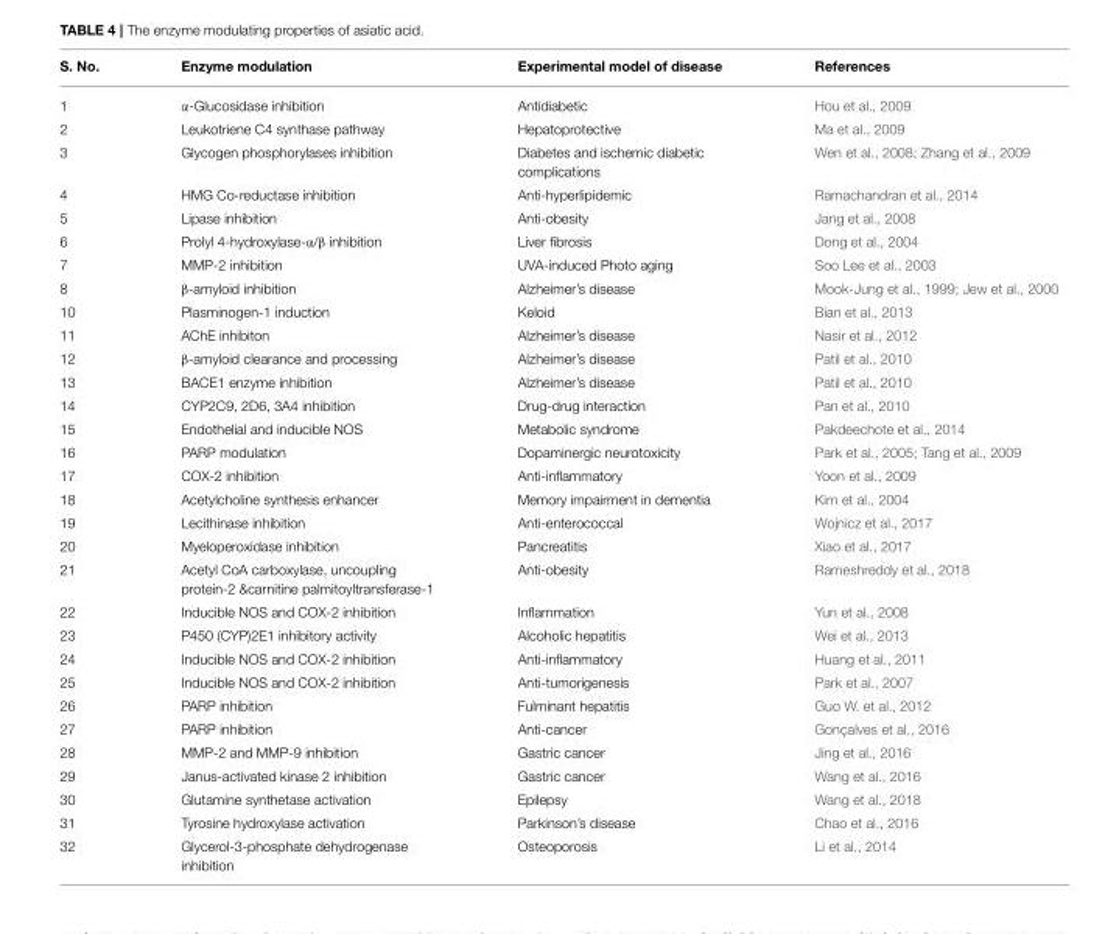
<table><thead><tr><td>S. No.</td><td>Enzyme modulation</td><td>Experimental model of disease</td><td>References</td></tr></thead><tbody><tr><td>1</td><td>α-Glucosidase inhibition</td><td>Antidiabetic</td><td>Hou et al., 2009</td></tr><tr><td>2</td><td>Leukotriene C4 synthase pathway</td><td>Hepatoprotective</td><td>Ma et al., 2009</td></tr><tr><td>3</td><td>Glycogen phosphorylases inhibition</td><td>Diabetes and ischemic diabetic complications</td><td>Wen et al., 2008; Zhang et al., 2009</td></tr><tr><td>4</td><td>HMG Co-reductase inhibition</td><td>Anti-hyperlipidemic</td><td>Ramachandran et al., 2014</td></tr><tr><td>5</td><td>Lipase inhibition</td><td>Anti-obesity</td><td>Jang et al., 2008</td></tr><tr><td>6</td><td>Prolyl 4-hydroxylase-α/β inhibition</td><td>Liver fibrosis</td><td>Dong et al., 2004</td></tr><tr><td>7</td><td>MMP-2 inhibition</td><td>UVA-induced Photo aging</td><td>Soo Lee et al., 2003</td></tr><tr><td>8</td><td>β-amyloid inhibition</td><td>Alzheimer’s disease</td><td>Mook-Jung et al., 1999; Jew et al., 2000</td></tr><tr><td>10</td><td>Plasminogen-1 induction</td><td>Keloid</td><td>Bian et al., 2013</td></tr><tr><td>11</td><td>AChE inhibiton</td><td>Alzheimer’s disease</td><td>Nasir et al., 2012</td></tr><tr><td>12</td><td>β-amyloid clearance and processing</td><td>Alzheimer’s disease</td><td>Patil et al., 2010</td></tr><tr><td>13</td><td>BACE1 enzyme inhibition</td><td>Alzheimer’s disease</td><td>Patil et al., 2010</td></tr><tr><td>14</td><td>CYP2C9, 2D6, 3A4 inhibition</td><td>Drug-drug interaction</td><td>Pan et al., 2010</td></tr><tr><td>15</td><td>Endothelial and inducible NOS</td><td>Metabolic syndrome</td><td>Pakdeechote et al., 2014</td></tr><tr><td>16</td><td>PARP modulation</td><td>Dopaminergic neurotoxicity</td><td>Park et al., 2005; Tang et al., 2009</td></tr><tr><td>17</td><td>COX-2 inhibition</td><td>Anti-inflammatory</td><td>Yoon et al., 2009</td></tr><tr><td>18</td><td>Acetylcholine synthesis enhancer</td><td>Memory impairment in dementia</td><td>Kim et al., 2004</td></tr><tr><td>19</td><td>Lecithinase inhibition</td><td>Anti-enterococcal</td><td>Wojnicz et al., 2017</td></tr><tr><td>20</td><td>Myeloperoxidase inhibition</td><td>Pancreatitis</td><td>Xiao et al., 2017</td></tr><tr><td>21</td><td>Acetyl CoA carboxylase, uncoupling protein-2 &amp;carnitine palmitoyltransferase-1</td><td>Anti-obesity</td><td>Rameshreddy et al., 2018</td></tr><tr><td>22</td><td>Inducible NOS and COX-2 inhibition</td><td>Inflammation</td><td>Yun et al., 2008</td></tr><tr><td>23</td><td>P450 (CYP)2E1 inhibitory activity</td><td>Alcoholic hepatitis</td><td>Wei et al., 2013</td></tr><tr><td>24</td><td>Inducible NOS and COX-2 inhibition</td><td>Anti-inflammatory</td><td>Huang et al., 2011</td></tr><tr><td>25</td><td>Inducible NOS and COX-2 inhibition</td><td>Anti-tumorigenesis</td><td>Park et al., 2007</td></tr><tr><td>26</td><td>PARP inhibition</td><td>Fulminant hepatitis</td><td>Guo W. et al., 2012</td></tr><tr><td>27</td><td>PARP inhibition</td><td>Anti-cancer</td><td>Gonçalves et al., 2016</td></tr><tr><td>28</td><td>MMP-2 and MMP-9 inhibition</td><td>Gastric cancer</td><td>Jing et al., 2016</td></tr><tr><td>29</td><td>Janus-activated kinase 2 inhibition</td><td>Gastric cancer</td><td>Wang et al., 2016</td></tr><tr><td>30</td><td>Glutamine synthetase activation</td><td>Epilepsy</td><td>Wang et al., 2018</td></tr><tr><td>31</td><td>Tyrosine hydroxylase activation</td><td>Parkinson’s disease</td><td>Chao et al., 2016</td></tr><tr><td>32</td><td>Glycerol-3-phosphate dehydrogenase inhibition</td><td>Osteoporosis</td><td>Li et al., 2014</td></tr></tbody></table>